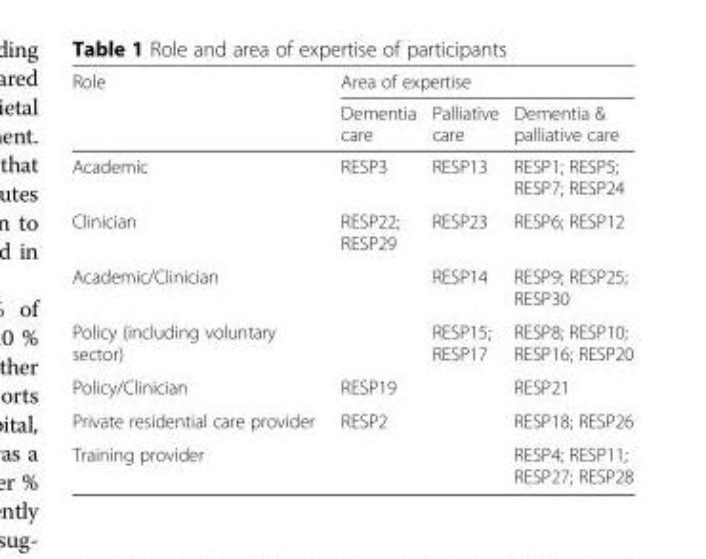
<table><thead><tr><td rowspan="2">Role</td><td colspan="3">Area of expertise</td></tr><tr><td>Dementia care</td><td>Palliative care</td><td>Dementia &amp; palliative care</td></tr></thead><tbody><tr><td>Academic</td><td>RESP3</td><td>RESP13</td><td>RESP1; RESP5; RESP7; RESP24</td></tr><tr><td>Clinician</td><td>RESP22; RESP29</td><td>RESP23</td><td>RESP6; RESP12</td></tr><tr><td>Academic/Clinician</td><td></td><td>RESP14</td><td>RESP9; RESP25; RESP30</td></tr><tr><td>Policy (including voluntary sector)</td><td></td><td>RESP15; RESP17</td><td>RESP8; RESP10; RESP16; RESP20</td></tr><tr><td>Policy/Clinician</td><td>RESP19</td><td></td><td>RESP21</td></tr><tr><td>Private residential care provider</td><td>RESP2</td><td></td><td>RESP18; RESP26</td></tr><tr><td>Training provider</td><td></td><td></td><td>RESP4; RESP11; RESP27; RESP28</td></tr></tbody></table>